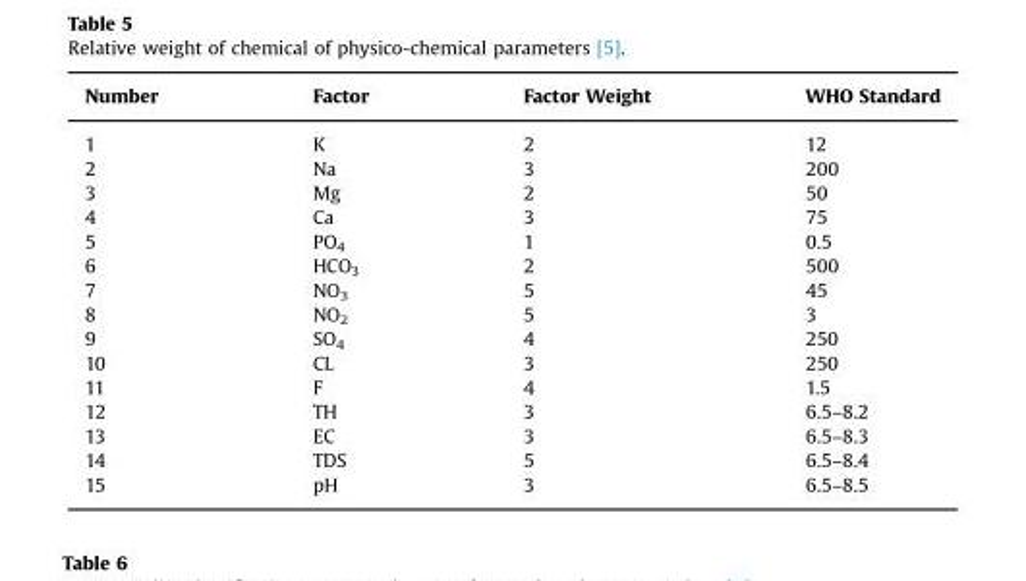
<table><thead><tr><td>Number</td><td>Factor</td><td>Factor Weight</td><td>WHO Standard</td></tr></thead><tbody><tr><td>1</td><td>K</td><td>2</td><td>12</td></tr><tr><td>2</td><td>Na</td><td>3</td><td>200</td></tr><tr><td>3</td><td>Mg</td><td>2</td><td>50</td></tr><tr><td>4</td><td>Ca</td><td>3</td><td>75</td></tr><tr><td>5</td><td>PO<sub>4</sub></td><td>1</td><td>0.5</td></tr><tr><td>6</td><td>HCO<sub>3</sub></td><td>2</td><td>500</td></tr><tr><td>7</td><td>NO<sub>3</sub></td><td>5</td><td>45</td></tr><tr><td>8</td><td>NO<sub>2</sub></td><td>5</td><td>3</td></tr><tr><td>9</td><td>SO<sub>4</sub></td><td>4</td><td>250</td></tr><tr><td>10</td><td>CL</td><td>3</td><td>250</td></tr><tr><td>11</td><td>F</td><td>4</td><td>1.5</td></tr><tr><td>12</td><td>TH</td><td>3</td><td>6.5–8.2</td></tr><tr><td>13</td><td>EC</td><td>3</td><td>6.5–8.3</td></tr><tr><td>14</td><td>TDS</td><td>5</td><td>6.5–8.4</td></tr><tr><td>15</td><td>pH</td><td>3</td><td>6.5–8.5</td></tr></tbody></table>